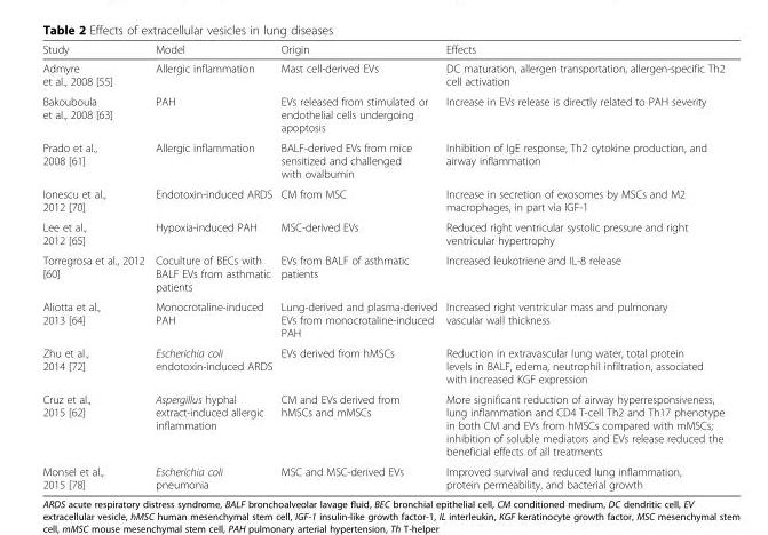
<table><thead><tr><td>Study</td><td>Model</td><td>Origin</td><td>Effects</td></tr></thead><tbody><tr><td>Admyre et al., 2008 [55]</td><td>Allergic inflammation</td><td>Mast cell-derived EVs</td><td>DC maturation, allergen transportation, allergen-specific Th2 cell activation</td></tr><tr><td>Bakouboula et al., 2008 [63]</td><td>PAH</td><td>EVs released from stimulated or endothelial cells undergoing apoptosis</td><td>Increase in EVs release is directly related to PAH severity</td></tr><tr><td>Prado et al., 2008 [61]</td><td>Allergic inflammation</td><td>BALF-derived EVs from mice sensitized and challenged with ovalbumin</td><td>Inhibition of IgE response, Th2 cytokine production, and airway inflammation</td></tr><tr><td>Ionescu et al., 2012 [70]</td><td>Endotoxin-induced ARDS</td><td>CM from MSC</td><td>Increase in secretion of exosomes by MSCs and M2 macrophages, in part via IGF-1</td></tr><tr><td>Lee et al., 2012 [65]</td><td>Hypoxia-induced PAH</td><td>MSC-derived EVs</td><td>Reduced right ventricular systolic pressure and right ventricular hypertrophy</td></tr><tr><td>Torregrosa et al., 2012 [60]</td><td>Coculture of BECs with BALF EVs from asthmatic patients</td><td>EVs from BALF of asthmatic patients</td><td>Increased leukotriene and IL-8 release</td></tr><tr><td>Aliotta et al., 2013 [64]</td><td>Monocrotaline-induced PAH</td><td>Lung-derived and plasma-derived EVs from monocrotaline-induced PAH</td><td>Increased right ventricular mass and pulmonary vascular wall thickness</td></tr><tr><td>Zhu et al., 2014 [72]</td><td>Escherichia coli endotoxin-induced ARDS</td><td>EVs derived from hMSCs</td><td>Reduction in extravascular lung water, total protein levels in BALF, edema, neutrophil infiltration, associated with increased KGF expression</td></tr><tr><td>Cruz et al., 2015 [62]</td><td>Aspergillus hyphal extract-induced allergic inflammation</td><td>CM and EVs derived from hMSCs and mMSCs</td><td>More significant reduction of airway hyperresponsiveness, lung inflammation and CD4 T-cell Th2 and Th17 phenotype in both CM and EVs from hMSCs compared with mMSCs; inhibition of soluble mediators and EVs release reduced the beneficial effects of all treatments</td></tr><tr><td>Monsel et al., 2015 [78]</td><td>Escherichia coli pneumonia</td><td>MSC and MSC-derived EVs</td><td>Improved survival and reduced lung inflammation, protein permeability, and bacterial growth</td></tr></tbody></table>